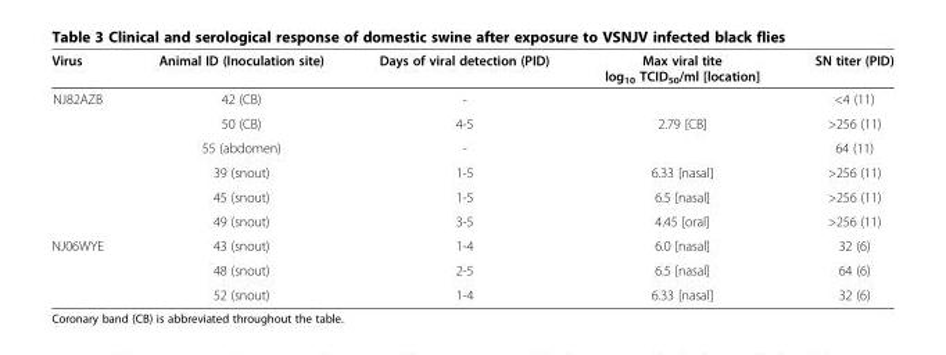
<table><thead><tr><td>Virus</td><td>Animal ID (Inoculation site)</td><td>Days of viral detection (PID)</td><td>Max viral tite log<sub>10</sub> TCID<sub>50</sub>/ml [location]</td><td>SN titer (PID)</td></tr></thead><tbody><tr><td rowspan="6">NJ82AZB</td><td>42 (CB)</td><td>-</td><td></td><td>&lt;4 (11)</td></tr><tr><td>50 (CB)</td><td>4-5</td><td>2.79 [CB]</td><td>&gt;256 (11)</td></tr><tr><td>55 (abdomen)</td><td>-</td><td></td><td>64 (11)</td></tr><tr><td>39 (snout)</td><td>1-5</td><td>6.33 [nasal]</td><td>&gt;256 (11)</td></tr><tr><td>45 (snout)</td><td>1-5</td><td>6.5 [nasal]</td><td>&gt;256 (11)</td></tr><tr><td>49 (snout)</td><td>3-5</td><td>4.45 [oral]</td><td>&gt;256 (11)</td></tr><tr><td rowspan="3">NJ06WYE</td><td>43 (snout)</td><td>1-4</td><td>6.0 [nasal]</td><td>32 (6)</td></tr><tr><td>48 (snout)</td><td>2-5</td><td>6.5 [nasal]</td><td>64 (6)</td></tr><tr><td>52 (snout)</td><td>1-4</td><td>6.33 [nasal]</td><td>32 (6)</td></tr></tbody></table>